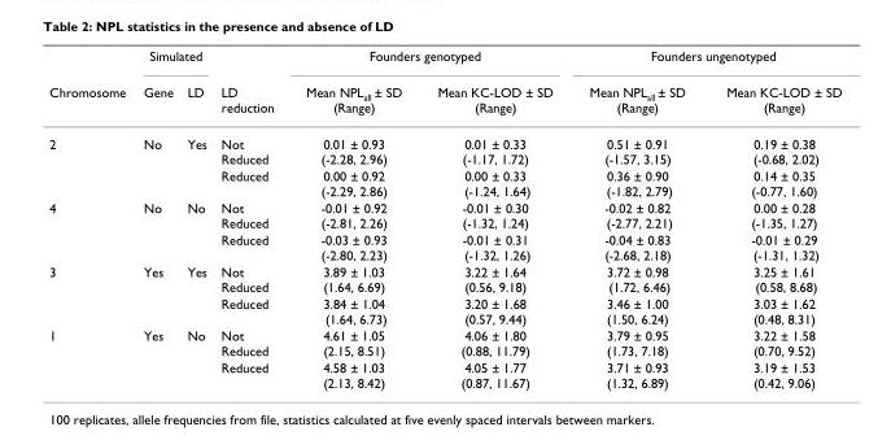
<table><thead><tr><td rowspan="2">Chromosome</td><td colspan="2">Simulated</td><td rowspan="2">LD reduction</td><td colspan="2">Founders genotyped</td><td colspan="2">Founders ungenotyped</td></tr><tr><td>Gene</td><td>LD</td><td>Mean NPLall ± SD (Range)</td><td>Mean KC-LOD ± SD (Range)</td><td>Mean NPLall ± SD (Range)</td><td>Mean KC-LOD ± SD (Range)</td></tr></thead><tbody><tr><td rowspan="2">2</td><td>No</td><td>Yes</td><td>Not Reduced</td><td>0.01 ± 0.93 (-2.28, 2.96)</td><td>0.01 ± 0.33 (-1.17, 1.72)</td><td>0.51 ± 0.91 (-1.57, 3.15)</td><td>0.19 ± 0.38 (-0.68, 2.02)</td></tr><tr><td></td><td></td><td>Reduced</td><td>0.00 ± 0.92 (-2.29, 2.86)</td><td>0.00 ± 0.33 (-1.24, 1.64)</td><td>0.36 ± 0.90 (-1.82, 2.79)</td><td>0.14 ± 0.35 (-0.77, 1.60)</td></tr><tr><td rowspan="2">4</td><td>No</td><td>No</td><td>Not Reduced</td><td>-0.01 ± 0.92 (-2.81, 2.26)</td><td>-0.01 ± 0.30 (-1.32, 1.24)</td><td>-0.02 ± 0.82 (-2.77, 2.21)</td><td>0.00 ± 0.28 (-1.35, 1.27)</td></tr><tr><td></td><td></td><td>Reduced</td><td>-0.03 ± 0.93 (-2.80, 2.23)</td><td>-0.01 ± 0.31 (-1.32, 1.26)</td><td>-0.04 ± 0.83 (-2.68, 2.18)</td><td>-0.01 ± 0.29 (-1.31, 1.32)</td></tr><tr><td rowspan="2">3</td><td>Yes</td><td>Yes</td><td>Not Reduced</td><td>3.89 ± 1.03 (1.64, 6.69)</td><td>3.22 ± 1.64 (0.56, 9.18)</td><td>3.72 ± 0.98 (1.72, 6.46)</td><td>3.25 ± 1.61 (0.58, 8.68)</td></tr><tr><td></td><td></td><td>Reduced</td><td>3.84 ± 1.04 (1.64, 6.73)</td><td>3.20 ± 1.68 (0.57, 9.44)</td><td>3.46 ± 1.00 (1.50, 6.24)</td><td>3.03 ± 1.62 (0.48, 8.31)</td></tr><tr><td rowspan="2">1</td><td>Yes</td><td>No</td><td>Not Reduced</td><td>4.61 ± 1.05 (2.15, 8.51)</td><td>4.06 ± 1.80 (0.88, 11.79)</td><td>3.79 ± 0.95 (1.73, 7.18)</td><td>3.22 ± 1.58 (0.70, 9.52)</td></tr><tr><td></td><td></td><td>Reduced</td><td>4.58 ± 1.03 (2.13, 8.42)</td><td>4.05 ± 1.77 (0.87, 11.67)</td><td>3.71 ± 0.93 (1.32, 6.89)</td><td>3.19 ± 1.53 (0.42, 9.06)</td></tr></tbody></table>